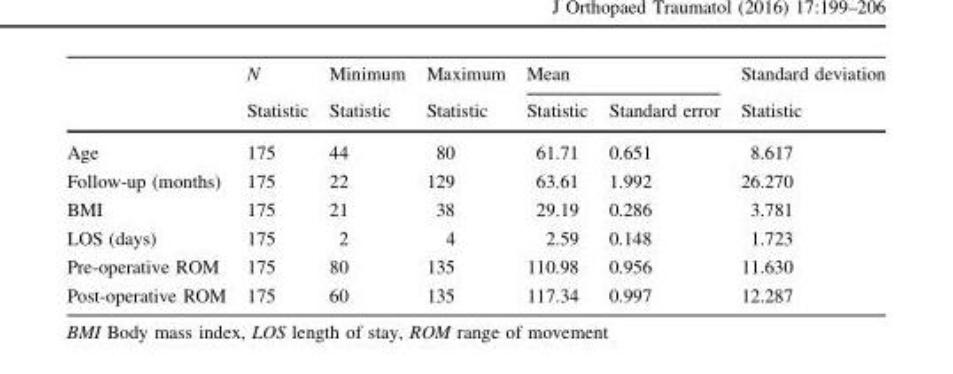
<table><thead><tr><td rowspan="2"></td><td rowspan="2">N Statistic</td><td rowspan="2">Minimum Statistic</td><td rowspan="2">Maximum Statistic</td><td colspan="2">Mean</td><td rowspan="2">Standard deviation Statistic</td></tr><tr><td>Statistic</td><td>Standard error</td></tr></thead><tbody><tr><td>Age</td><td>175</td><td>44</td><td>80</td><td>61.71</td><td>0.651</td><td>8.617</td></tr><tr><td>Follow-up (months)</td><td>175</td><td>22</td><td>129</td><td>63.61</td><td>1.992</td><td>26.270</td></tr><tr><td>BMI</td><td>175</td><td>21</td><td>38</td><td>29.19</td><td>0.286</td><td>3.781</td></tr><tr><td>LOS (days)</td><td>175</td><td>2</td><td>4</td><td>2.59</td><td>0.148</td><td>1.723</td></tr><tr><td>Pre-operative ROM</td><td>175</td><td>80</td><td>135</td><td>110.98</td><td>0.956</td><td>11.630</td></tr><tr><td>Post-operative ROM</td><td>175</td><td>60</td><td>135</td><td>117.34</td><td>0.997</td><td>12.287</td></tr></tbody></table>